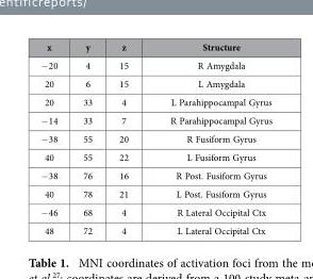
<table><thead><tr><td>x</td><td>y</td><td>z</td><td>Structure</td></tr></thead><tbody><tr><td>− 20</td><td>4</td><td>15</td><td>R Amygdala</td></tr><tr><td>20</td><td>6</td><td>15</td><td>L Amygdala</td></tr><tr><td>20</td><td>33</td><td>4</td><td>L Parahippocampal Gyrus</td></tr><tr><td>− 14</td><td>33</td><td>7</td><td>R Parahippocampal Gyrus</td></tr><tr><td>− 38</td><td>55</td><td>20</td><td>R Fusiform Gyrus</td></tr><tr><td>40</td><td>55</td><td>22</td><td>L Fusiform Gyrus</td></tr><tr><td>− 38</td><td>76</td><td>16</td><td>R Post. Fusiform Gyrus</td></tr><tr><td>40</td><td>78</td><td>21</td><td>L Post. Fusiform Gyrus</td></tr><tr><td>− 46</td><td>68</td><td>4</td><td>R Lateral Occipital Ctx</td></tr><tr><td>48</td><td>72</td><td>4</td><td>L Lateral Occipital Ctx</td></tr></tbody></table>